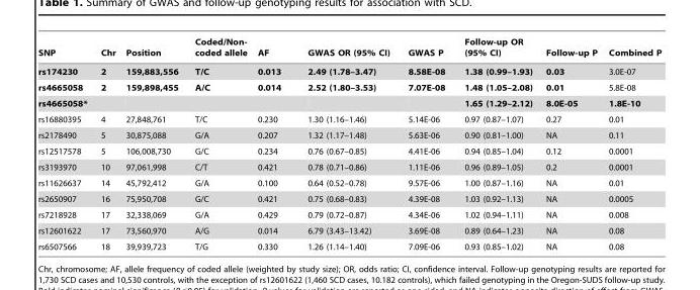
<table><thead><tr><td>SNP</td><td>Chr</td><td>Position</td><td>Coded/Non- coded allele</td><td>AF</td><td>GWAS OR (95% CI)</td><td>GWAS P</td><td>Follow-up OR (95% CI)</td><td>Follow-up P</td><td>Combined P</td></tr></thead><tbody><tr><td>rs174230</td><td>2</td><td>159,883,556</td><td>T/C</td><td>0.013</td><td>2.49 (1.78–3.47)</td><td>8.58E-08</td><td>1.38 (0.99–1.93)</td><td>0.03</td><td>3.0E-07</td></tr><tr><td>rs4665058</td><td>2</td><td>159,898,455</td><td>A/C</td><td>0.014</td><td>2.52 (1.80–3.53)</td><td>7.07E-08</td><td>1.48 (1.05–2.08)</td><td>0.01</td><td>5.8E-08</td></tr><tr><td>rs4665058*</td><td></td><td></td><td></td><td></td><td></td><td></td><td>1.65 (1.29–2.12)</td><td>8.0E-05</td><td>1.8E-10</td></tr><tr><td>rs16880395</td><td>4</td><td>27,848,761</td><td>T/C</td><td>0.230</td><td>1.30 (1.16–1.46)</td><td>5.14E-06</td><td>0.97 (0.87–1.07)</td><td>0.27</td><td>0.01</td></tr><tr><td>rs2178490</td><td>5</td><td>30,875,088</td><td>G/A</td><td>0.207</td><td>1.32 (1.17–1.48)</td><td>5.63E-06</td><td>0.90 (0.81–1.00)</td><td>NA</td><td>0.11</td></tr><tr><td>rs12517578</td><td>5</td><td>106,008,730</td><td>G/C</td><td>0.234</td><td>0.76 (0.67–0.85)</td><td>4.41E-06</td><td>0.94 (0.85–1.04)</td><td>0.12</td><td>0.0001</td></tr><tr><td>rs3193970</td><td>10</td><td>97,061,998</td><td>C/T</td><td>0.421</td><td>0.78 (0.71–0.86)</td><td>1.11E-06</td><td>0.96 (0.89–1.05)</td><td>0.2</td><td>0.0001</td></tr><tr><td>rs11626637</td><td>14</td><td>45,792,412</td><td>G/A</td><td>0.100</td><td>0.64 (0.52–0.78)</td><td>9.57E-06</td><td>1.00 (0.87–1.16)</td><td>NA</td><td>0.01</td></tr><tr><td>rs2650907</td><td>16</td><td>75,950,708</td><td>G/C</td><td>0.421</td><td>0.75 (0.68–0.83)</td><td>4.39E-08</td><td>1.03 (0.92–1.13)</td><td>NA</td><td>0.0005</td></tr><tr><td>rs7218928</td><td>17</td><td>32,338,069</td><td>G/A</td><td>0.429</td><td>0.79 (0.72–0.87)</td><td>4.34E-06</td><td>1.02 (0.94–1.11)</td><td>NA</td><td>0.008</td></tr><tr><td>rs12601622</td><td>17</td><td>73,560,970</td><td>A/G</td><td>0.014</td><td>6.79 (3.43–13.42)</td><td>3.69E-08</td><td>0.89 (0.64–1.23)</td><td>NA</td><td>0.08</td></tr><tr><td>rs6507566</td><td>18</td><td>39,939,723</td><td>T/G</td><td>0.330</td><td>1.26 (1.14–1.40)</td><td>7.09E-06</td><td>0.93 (0.85–1.02)</td><td>NA</td><td>0.08</td></tr></tbody></table>